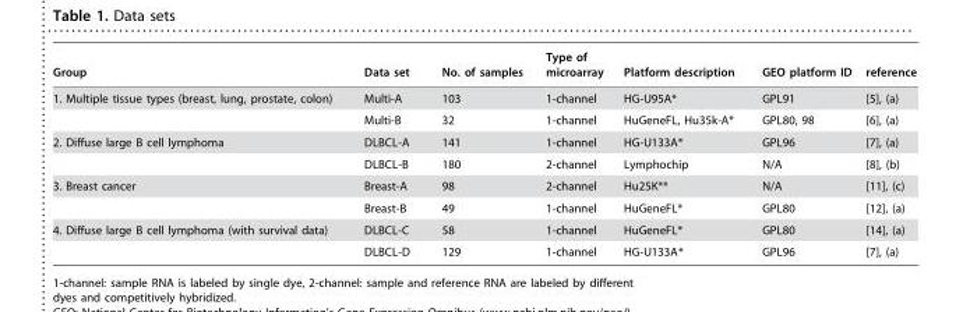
<table><thead><tr><td>Group</td><td>Data set</td><td>No. of samples</td><td>Type of microarray</td><td>Platform description</td><td>GEO platform ID</td><td>reference</td></tr></thead><tbody><tr><td rowspan="2">1. Multiple tissue types (breast, lung, prostate, colon)</td><td>Multi-A</td><td>103</td><td>1-channel</td><td>HG-U95A*</td><td>GPL91</td><td>[5], (a)</td></tr><tr><td>Multi-B</td><td>32</td><td>1-channel</td><td>HuGeneFL, Hu35k-A*</td><td>GPL80, 98</td><td>[6], (a)</td></tr><tr><td rowspan="2">2. Diffuse large B cell lymphoma</td><td>DLBCL-A</td><td>141</td><td>1-channel</td><td>HG-U133A*</td><td>GPL96</td><td>[7], (a)</td></tr><tr><td>DLBCL-B</td><td>180</td><td>2-channel</td><td>Lymphochip</td><td>N/A</td><td>[8], (b)</td></tr><tr><td rowspan="2">3. Breast cancer</td><td>Breast-A</td><td>98</td><td>2-channel</td><td>Hu25K**</td><td>N/A</td><td>[11], (c)</td></tr><tr><td>Breast-B</td><td>49</td><td>1-channel</td><td>HuGeneFL*</td><td>GPL80</td><td>[12], (a)</td></tr><tr><td rowspan="2">4. Diffuse large B cell lymphoma (with survival data)</td><td>DLBCL-C</td><td>58</td><td>1-channel</td><td>HuGeneFL*</td><td>GPL80</td><td>[14], (a)</td></tr><tr><td>DLBCL-D</td><td>129</td><td>1-channel</td><td>HG-U133A*</td><td>GPL96</td><td>[7], (a)</td></tr></tbody></table>